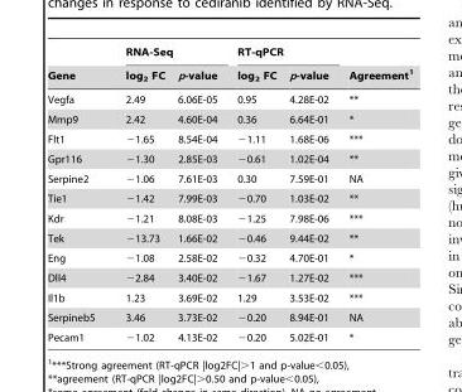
<table><thead><tr><td rowspan="2">Gene</td><td colspan="2">RNA-Seq</td><td colspan="2">RT-qPCR</td><td rowspan="2">Agreement<sup>1</sup></td></tr><tr><td>log<sub>2</sub> FC</td><td>p-value</td><td>log<sub>2</sub> FC</td><td>p-value</td></tr></thead><tbody><tr><td>Vegfa</td><td>2.49</td><td>6.06E-05</td><td>0.95</td><td>4.28E-02</td><td>**</td></tr><tr><td>Mmp9</td><td>2.42</td><td>4.60E-04</td><td>0.36</td><td>6.64E-01</td><td>*</td></tr><tr><td>Flt1</td><td>−1.65</td><td>8.54E-04</td><td>−1.11</td><td>1.68E-06</td><td>***</td></tr><tr><td>Gpr116</td><td>−1.30</td><td>2.85E-03</td><td>−0.61</td><td>1.02E-04</td><td>**</td></tr><tr><td>Serpine2</td><td>−1.06</td><td>7.61E-03</td><td>0.30</td><td>7.59E-01</td><td>NA</td></tr><tr><td>Tie1</td><td>−1.42</td><td>7.99E-03</td><td>−0.70</td><td>1.03E-02</td><td>**</td></tr><tr><td>Kdr</td><td>−1.21</td><td>8.08E-03</td><td>−1.25</td><td>7.98E-06</td><td>***</td></tr><tr><td>Tek</td><td>−13.73</td><td>1.66E-02</td><td>−0.46</td><td>9.44E-02</td><td>**</td></tr><tr><td>Eng</td><td>−1.08</td><td>2.58E-02</td><td>−0.32</td><td>4.70E-01</td><td>*</td></tr><tr><td>Dll4</td><td>−2.84</td><td>3.40E-02</td><td>−1.67</td><td>1.27E-02</td><td>***</td></tr><tr><td>Il1b</td><td>1.23</td><td>3.69E-02</td><td>1.29</td><td>3.53E-02</td><td>***</td></tr><tr><td>Serpineb5</td><td>3.46</td><td>3.73E-02</td><td>−0.20</td><td>8.94E-01</td><td>NA</td></tr><tr><td>Pecam1</td><td>−1.02</td><td>4.13E-02</td><td>−0.20</td><td>5.02E-01</td><td>*</td></tr></tbody></table>